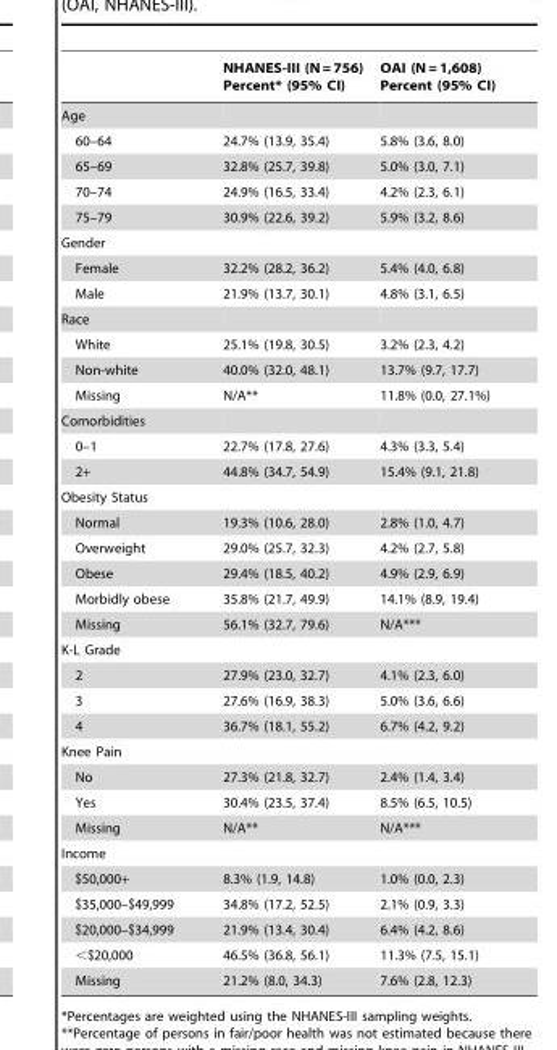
<table><thead><tr><td></td><td>NHANES-III (N = 756) Percent* (95% CI)</td><td>OAI (N = 1,608) Percent (95% CI)</td></tr></thead><tbody><tr><td colspan="3">Age</td></tr><tr><td>60–64</td><td>24.7% (13.9, 35.4)</td><td>5.8% (3.6, 8.0)</td></tr><tr><td>65–69</td><td>32.8% (25.7, 39.8)</td><td>5.0% (3.0, 7.1)</td></tr><tr><td>70–74</td><td>24.9% (16.5, 33.4)</td><td>4.2% (2.3, 6.1)</td></tr><tr><td>75–79</td><td>30.9% (22.6, 39.2)</td><td>5.9% (3.2, 8.6)</td></tr><tr><td colspan="3">Gender</td></tr><tr><td>Female</td><td>32.2% (28.2, 36.2)</td><td>5.4% (4.0, 6.8)</td></tr><tr><td>Male</td><td>21.9% (13.7, 30.1)</td><td>4.8% (3.1, 6.5)</td></tr><tr><td colspan="3">Race</td></tr><tr><td>White</td><td>25.1% (19.8, 30.5)</td><td>3.2% (2.3, 4.2)</td></tr><tr><td>Non-white</td><td>40.0% (32.0, 48.1)</td><td>13.7% (9.7, 17.7)</td></tr><tr><td>Missing</td><td>N/A**</td><td>11.8% (0.0, 27.1%)</td></tr><tr><td colspan="3">Comorbidities</td></tr><tr><td>0–1</td><td>22.7% (17.8, 27.6)</td><td>4.3% (3.3, 5.4)</td></tr><tr><td>2+</td><td>44.8% (34.7, 54.9)</td><td>15.4% (9.1, 21.8)</td></tr><tr><td colspan="3">Obesity Status</td></tr><tr><td>Normal</td><td>19.3% (10.6, 28.0)</td><td>2.8% (1.0, 4.7)</td></tr><tr><td>Overweight</td><td>29.0% (25.7, 32.3)</td><td>4.2% (2.7, 5.8)</td></tr><tr><td>Obese</td><td>29.4% (18.5, 40.2)</td><td>4.9% (2.9, 6.9)</td></tr><tr><td>Morbidly obese</td><td>35.8% (21.7, 49.9)</td><td>14.1% (8.9, 19.4)</td></tr><tr><td>Missing</td><td>56.1% (32.7, 79.6)</td><td>N/A***</td></tr><tr><td colspan="3">K-L Grade</td></tr><tr><td>2</td><td>27.9% (23.0, 32.7)</td><td>4.1% (2.3, 6.0)</td></tr><tr><td>3</td><td>27.6% (16.9, 38.3)</td><td>5.0% (3.6, 6.6)</td></tr><tr><td>4</td><td>36.7% (18.1, 55.2)</td><td>6.7% (4.2, 9.2)</td></tr><tr><td colspan="3">Knee Pain</td></tr><tr><td>No</td><td>27.3% (21.8, 32.7)</td><td>2.4% (1.4, 3.4)</td></tr><tr><td>Yes</td><td>30.4% (23.5, 37.4)</td><td>8.5% (6.5, 10.5)</td></tr><tr><td>Missing</td><td>N/A**</td><td>N/A***</td></tr><tr><td colspan="3">Income</td></tr><tr><td>$50,000+</td><td>8.3% (1.9, 14.8)</td><td>1.0% (0.0, 2.3)</td></tr><tr><td>$35,000–$49,999</td><td>34.8% (17.2, 52.5)</td><td>2.1% (0.9, 3.3)</td></tr><tr><td>$20,000–$34,999</td><td>21.9% (13.4, 30.4)</td><td>6.4% (4.2, 8.6)</td></tr><tr><td>&lt;$20,000</td><td>46.5% (36.8, 56.1)</td><td>11.3% (7.5, 15.1)</td></tr><tr><td>Missing</td><td>21.2% (8.0, 34.3)</td><td>7.6% (2.8, 12.3)</td></tr></tbody></table>